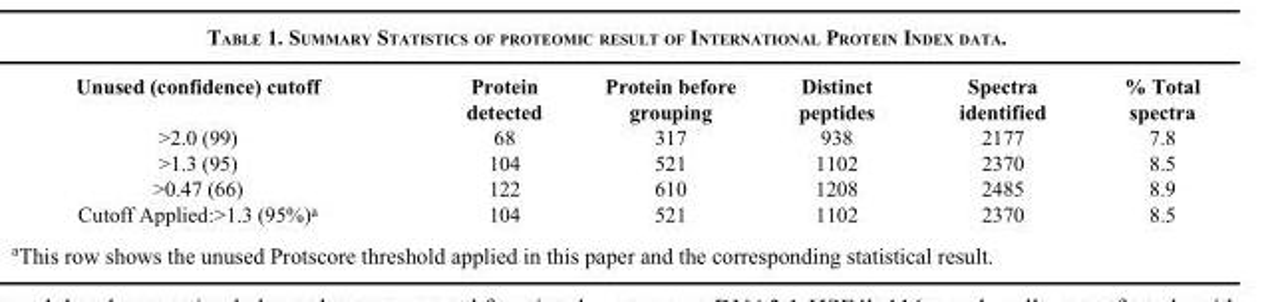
<table><thead><tr><td>Unused (confidence) cutoff</td><td>Protein detected</td><td>Protein before grouping</td><td>Distinct peptides</td><td>Spectra identified</td><td>% Total spectra</td></tr></thead><tbody><tr><td>&gt;2.0 (99)</td><td>68</td><td>317</td><td>938</td><td>2177</td><td>7.8</td></tr><tr><td>&gt;1.3 (95)</td><td>104</td><td>521</td><td>1102</td><td>2370</td><td>8.5</td></tr><tr><td>&gt;0.47 (66)</td><td>122</td><td>610</td><td>1208</td><td>2485</td><td>8.9</td></tr><tr><td>Cutoff Applied:&gt;1.3 (95%)<sup>a</sup></td><td>104</td><td>521</td><td>1102</td><td>2370</td><td>8.5</td></tr></tbody></table>